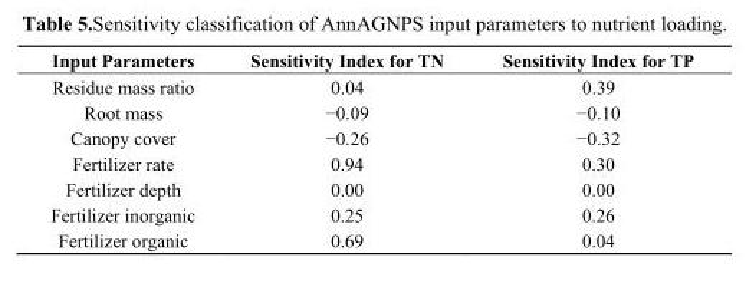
<table><thead><tr><td>Input Parameters</td><td>Sensitivity Index for TN</td><td>Sensitivity Index for TP</td></tr></thead><tbody><tr><td>Residue mass ratio</td><td>0.04</td><td>0.39</td></tr><tr><td>Root mass</td><td>−0.09</td><td>−0.10</td></tr><tr><td>Canopy cover</td><td>−0.26</td><td>−0.32</td></tr><tr><td>Fertilizer rate</td><td>0.94</td><td>0.30</td></tr><tr><td>Fertilizer depth</td><td>0.00</td><td>0.00</td></tr><tr><td>Fertilizer inorganic</td><td>0.25</td><td>0.26</td></tr><tr><td>Fertilizer organic</td><td>0.69</td><td>0.04</td></tr></tbody></table>